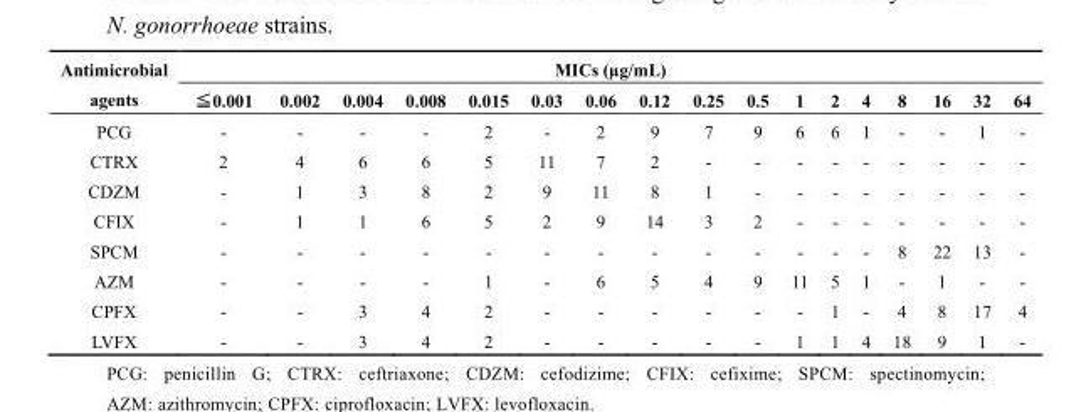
<table><thead><tr><td rowspan="2">Antimicrobial agents</td><td colspan="17">MICs (µg/mL)</td></tr><tr><td>≦0.001</td><td>0.002</td><td>0.004</td><td>0.008</td><td>0.015</td><td>0.03</td><td>0.06</td><td>0.12</td><td>0.25</td><td>0.5</td><td>1</td><td>2</td><td>4</td><td>8</td><td>16</td><td>32</td><td>64</td></tr></thead><tbody><tr><td>PCG</td><td>-</td><td>-</td><td>-</td><td>-</td><td>2</td><td>-</td><td>2</td><td>9</td><td>7</td><td>9</td><td>6</td><td>6</td><td>1</td><td>-</td><td>-</td><td>1</td><td>-</td></tr><tr><td>CTRX</td><td>2</td><td>4</td><td>6</td><td>6</td><td>5</td><td>11</td><td>7</td><td>2</td><td>-</td><td>-</td><td>-</td><td>-</td><td>-</td><td>-</td><td>-</td><td>-</td><td>-</td></tr><tr><td>CDZM</td><td>-</td><td>1</td><td>3</td><td>8</td><td>2</td><td>9</td><td>11</td><td>8</td><td>1</td><td>-</td><td>-</td><td>-</td><td>-</td><td>-</td><td>-</td><td>-</td><td>-</td></tr><tr><td>CFIX</td><td>-</td><td>1</td><td>1</td><td>6</td><td>5</td><td>2</td><td>9</td><td>14</td><td>3</td><td>2</td><td>-</td><td>-</td><td>-</td><td>-</td><td>-</td><td>-</td><td>-</td></tr><tr><td>SPCM</td><td>-</td><td>-</td><td>-</td><td>-</td><td>-</td><td>-</td><td>-</td><td>-</td><td>-</td><td>-</td><td>-</td><td>-</td><td>-</td><td>8</td><td>22</td><td>13</td><td>-</td></tr><tr><td>AZM</td><td>-</td><td>-</td><td>-</td><td>-</td><td>1</td><td>-</td><td>6</td><td>5</td><td>4</td><td>9</td><td>11</td><td>5</td><td>1</td><td>-</td><td>1</td><td>-</td><td>-</td></tr><tr><td>CPFX</td><td>-</td><td>-</td><td>3</td><td>4</td><td>2</td><td>-</td><td>-</td><td>-</td><td>-</td><td>-</td><td>-</td><td>1</td><td>-</td><td>4</td><td>8</td><td>17</td><td>4</td></tr><tr><td>LVFX</td><td>-</td><td>-</td><td>3</td><td>4</td><td>2</td><td>-</td><td>-</td><td>-</td><td>-</td><td>-</td><td>1</td><td>1</td><td>4</td><td>18</td><td>9</td><td>1</td><td>-</td></tr></tbody></table>